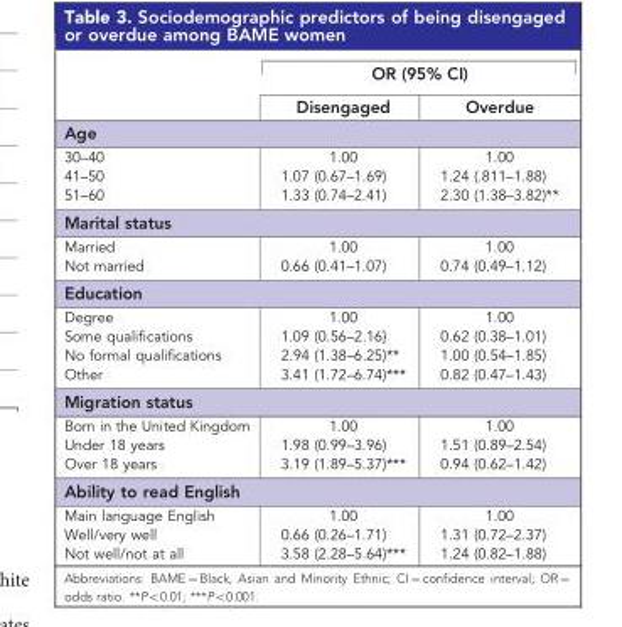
<table><thead><tr><td rowspan="2"></td><td colspan="2">OR (95% CI)</td></tr><tr><td>Disengaged</td><td>Overdue</td></tr></thead><tbody><tr><td colspan="3">Age</td></tr><tr><td>30–40</td><td>1.00</td><td>1.00</td></tr><tr><td>41–50</td><td>1.07 (0.67–1.69)</td><td>1.24 (.811–1.88)</td></tr><tr><td>51–60</td><td>1.33 (0.74–2.41)</td><td>2.30 (1.38–3.82)**</td></tr><tr><td colspan="3">Marital status</td></tr><tr><td>Married</td><td>1.00</td><td>1.00</td></tr><tr><td>Not married</td><td>0.66 (0.41–1.07)</td><td>0.74 (0.49–1.12)</td></tr><tr><td colspan="3">Education</td></tr><tr><td>Degree</td><td>1.00</td><td>1.00</td></tr><tr><td>Some qualifications</td><td>1.09 (0.56–2.16}</td><td>0.62 (0.38–1.01)</td></tr><tr><td>No formal qualifications</td><td>2.94 (1.38–6.25)**</td><td>1.00 (0.54–1.85)</td></tr><tr><td>Other</td><td>3.41 (1.72–6.74)***</td><td>0.82 (0.47–1.43)</td></tr><tr><td colspan="3">Migration status</td></tr><tr><td>Born in the United Kingdom</td><td>1.00</td><td>1.00</td></tr><tr><td>Under 18 years</td><td>1.98 (0.99–3.96)</td><td>1.51 (0.89–2.54)</td></tr><tr><td>Over 18 years</td><td>3.19 (1.89–5.37)***</td><td>0.94 (0.62–1.42)</td></tr><tr><td colspan="3">Ability to read English</td></tr><tr><td>Main language English</td><td>1.00</td><td>1.00</td></tr><tr><td>Well/very well</td><td>0.66 (0.26–1.71)</td><td>1.31 (0.72–2.37)</td></tr><tr><td>Not well/not at all</td><td>3.58 (2.28–5.64)***</td><td>1.24 (0.82–1.88)</td></tr></tbody></table>